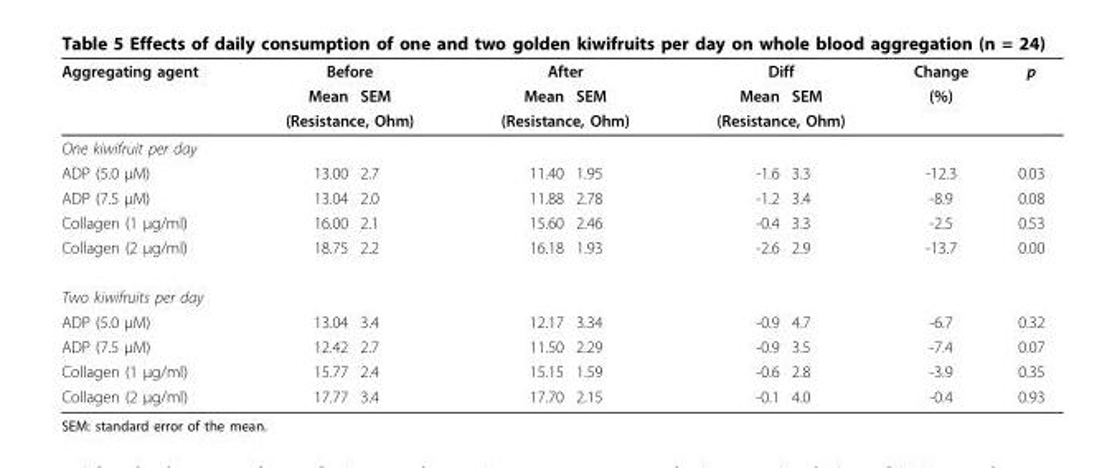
<table><thead><tr><td rowspan="3">Aggregating agent</td><td colspan="2">Before</td><td colspan="2">After</td><td colspan="2">Diff</td><td rowspan="3">Change (%)</td><td rowspan="3">p</td></tr><tr><td>Mean</td><td>SEM</td><td>Mean</td><td>SEM</td><td>Mean</td><td>SEM</td></tr><tr><td colspan="2">(Resistance, Ohm)</td><td colspan="2">(Resistance, Ohm)</td><td colspan="2">(Resistance, Ohm)</td></tr></thead><tbody><tr><td colspan="9">One kiwifruit per day</td></tr><tr><td>ADP (5.0 μM)</td><td>13.00</td><td>2.7</td><td>11.40</td><td>1.95</td><td>-1.6</td><td>3.3</td><td>-12.3</td><td>0.03</td></tr><tr><td>ADP (7.5 μM)</td><td>13.04</td><td>2.0</td><td>11.88</td><td>2.78</td><td>-1.2</td><td>3.4</td><td>-8.9</td><td>0.08</td></tr><tr><td>Collagen (1 μg/ml)</td><td>16.00</td><td>2.1</td><td>15.60</td><td>2.46</td><td>-0.4</td><td>3.3</td><td>-2.5</td><td>0.53</td></tr><tr><td>Collagen (2 μg/ml)</td><td>18.75</td><td>2.2</td><td>16.18</td><td>1.93</td><td>-2.6</td><td>2.9</td><td>-13.7</td><td>0.00</td></tr><tr><td colspan="9">Two kiwifruits per day</td></tr><tr><td>ADP (5.0 μM)</td><td>13.04</td><td>3.4</td><td>12.17</td><td>3.34</td><td>-0.9</td><td>4.7</td><td>-6.7</td><td>0.32</td></tr><tr><td>ADP (7.5 μM)</td><td>12.42</td><td>2.7</td><td>11.50</td><td>2.29</td><td>-0.9</td><td>3.5</td><td>-7.4</td><td>0.07</td></tr><tr><td>Collagen (1 μg/ml)</td><td>15.77</td><td>2.4</td><td>15.15</td><td>1.59</td><td>-0.6</td><td>2.8</td><td>-3.9</td><td>0.35</td></tr><tr><td>Collagen (2 μg/ml)</td><td>17.77</td><td>3.4</td><td>17.70</td><td>2.15</td><td>-0.1</td><td>4.0</td><td>-0.4</td><td>0.93</td></tr></tbody></table>